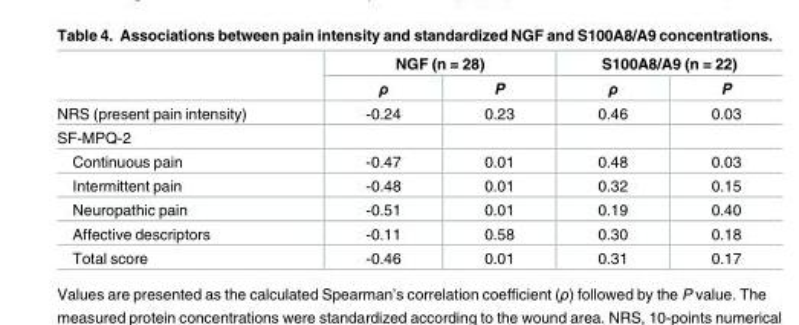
<table><thead><tr><td rowspan="2"></td><td colspan="2">NGF (n = 28)</td><td colspan="2">S100A8/A9 (n = 22)</td></tr><tr><td>ρ</td><td>P</td><td>ρ</td><td>P</td></tr></thead><tbody><tr><td>NRS (present pain intensity)</td><td>-0.24</td><td>0.23</td><td>0.46</td><td>0.03</td></tr><tr><td colspan="5">SF-MPQ-2</td></tr><tr><td>Continuous pain</td><td>-0.47</td><td>0.01</td><td>0.48</td><td>0.03</td></tr><tr><td>Intermittent pain</td><td>-0.48</td><td>0.01</td><td>0.32</td><td>0.15</td></tr><tr><td>Neuropathic pain</td><td>-0.51</td><td>0.01</td><td>0.19</td><td>0.40</td></tr><tr><td>Affective descriptors</td><td>-0.11</td><td>0.58</td><td>0.30</td><td>0.18</td></tr><tr><td>Total score</td><td>-0.46</td><td>0.01</td><td>0.31</td><td>0.17</td></tr></tbody></table>